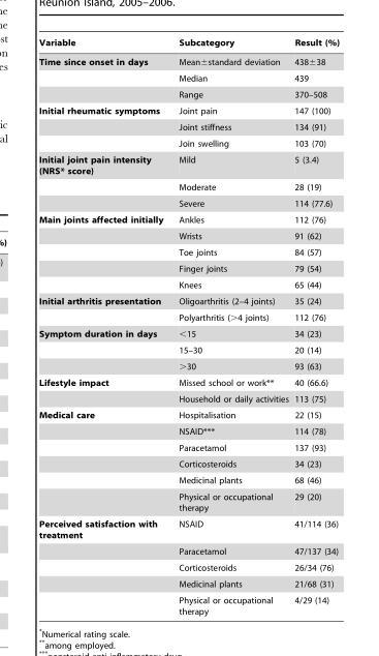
<table><thead><tr><td>Variable</td><td>Subcategory</td><td>Result (%)</td></tr></thead><tbody><tr><td rowspan="3">Time since onset in days</td><td>Mean±standard deviation</td><td>438±38</td></tr><tr><td>Median</td><td>439</td></tr><tr><td>Range</td><td>370–508</td></tr><tr><td rowspan="3">Initial rheumatic symptoms</td><td>Joint pain</td><td>147 (100)</td></tr><tr><td>Joint stiffness</td><td>134 (91)</td></tr><tr><td>Join swelling</td><td>103 (70)</td></tr><tr><td rowspan="3">Initial joint pain intensity (NRS* score)</td><td>Mild</td><td>5 (3.4)</td></tr><tr><td>Moderate</td><td>28 (19)</td></tr><tr><td>Severe</td><td>114 (77.6)</td></tr><tr><td rowspan="5">Main joints affected initially</td><td>Ankles</td><td>112 (76)</td></tr><tr><td>Wrists</td><td>91 (62)</td></tr><tr><td>Toe joints</td><td>84 (57)</td></tr><tr><td>Finger joints</td><td>79 (54)</td></tr><tr><td>Knees</td><td>65 (44)</td></tr><tr><td rowspan="2">Initial arthritis presentation</td><td>Oligoarthritis (2–4 joints)</td><td>35 (24)</td></tr><tr><td>Polyarthritis (&gt;4 joints)</td><td>112 (76)</td></tr><tr><td rowspan="3">Symptom duration in days</td><td>&lt;15</td><td>34 (23)</td></tr><tr><td>15–30</td><td>20 (14)</td></tr><tr><td>&gt;30</td><td>93 (63)</td></tr><tr><td rowspan="2">Lifestyle impact</td><td>Missed school or work**</td><td>40 (66.6)</td></tr><tr><td>Household or daily activities</td><td>113 (75)</td></tr><tr><td rowspan="6">Medical care</td><td>Hospitalisation</td><td>22 (15)</td></tr><tr><td>NSAID***</td><td>114 (78)</td></tr><tr><td>Paracetamol</td><td>137 (93)</td></tr><tr><td>Corticosteroids</td><td>34 (23)</td></tr><tr><td>Medicinal plants</td><td>68 (46)</td></tr><tr><td>Physical or occupational therapy</td><td>29 (20)</td></tr><tr><td rowspan="5">Perceived satisfaction with treatment</td><td>NSAID</td><td>41/114 (36)</td></tr><tr><td>Paracetamol</td><td>47/137 (34)</td></tr><tr><td>Corticosteroids</td><td>26/34 (76)</td></tr><tr><td>Medicinal plants</td><td>21/68 (31)</td></tr><tr><td>Physical or occupational therapy</td><td>4/29 (14)</td></tr></tbody></table>